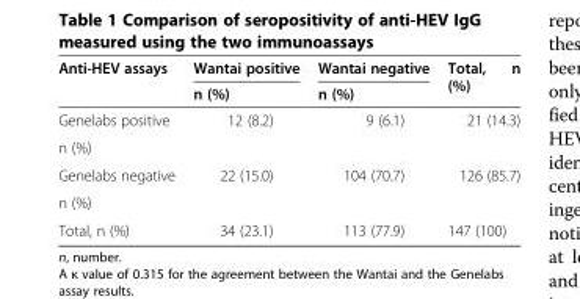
<table><thead><tr><td rowspan="2">Anti-HEV assays</td><td rowspan="2">Wantai positive n (%)</td><td rowspan="2">Wantai negative n (%)</td><td rowspan="2">Total, n (%)</td></tr><tr></tr></thead><tbody><tr><td>Genelabs positive</td><td rowspan="2">12 (8.2)</td><td rowspan="2">9 (6.1)</td><td rowspan="2">21 (14.3)</td></tr><tr><td>n (%)</td></tr><tr><td>Genelabs negative</td><td rowspan="2">22 (15.0)</td><td rowspan="2">104 (70.7)</td><td rowspan="2">126 (85.7)</td></tr><tr><td>n (%)</td></tr><tr><td>Total, n (%)</td><td>34 (23.1)</td><td>113 (77.9)</td><td>147 (100)</td></tr></tbody></table>